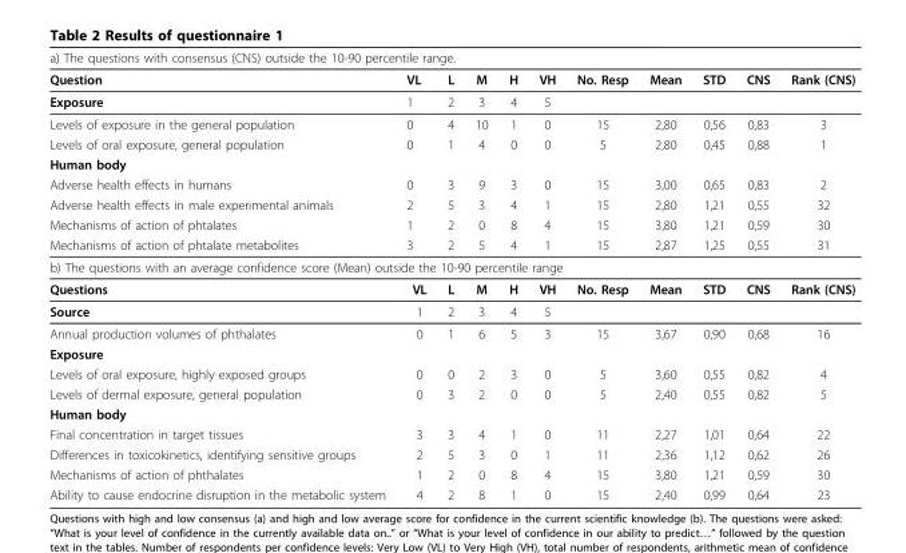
<table><thead><tr><td colspan="11">a) The questions with consensus (CNS) outside the 10-90 percentile range.</td></tr><tr><td>Question</td><td>VL</td><td>L</td><td>M</td><td>H</td><td>VH</td><td>No. Resp</td><td>Mean</td><td>STD</td><td>CNS</td><td>Rank (CNS)</td></tr></thead><tbody><tr><td>Exposure</td><td>1</td><td>2</td><td>3</td><td>4</td><td>5</td><td></td><td></td><td></td><td></td><td></td></tr><tr><td>Levels of exposure in the general population</td><td>0</td><td>4</td><td>10</td><td>1</td><td>0</td><td>15</td><td>2,80</td><td>0,56</td><td>0,83</td><td>3</td></tr><tr><td>Levels of oral exposure, general population</td><td>0</td><td>1</td><td>4</td><td>0</td><td>0</td><td>5</td><td>2,80</td><td>0,45</td><td>0,88</td><td>1</td></tr><tr><td colspan="11">Human body</td></tr><tr><td>Adverse health effects in humans</td><td>0</td><td>3</td><td>9</td><td>3</td><td>0</td><td>15</td><td>3,00</td><td>0,65</td><td>0,83</td><td>2</td></tr><tr><td>Adverse health effects in male experimental animals</td><td>2</td><td>5</td><td>3</td><td>4</td><td>1</td><td>15</td><td>2,80</td><td>1,21</td><td>0,55</td><td>32</td></tr><tr><td>Mechanisms of action of phtalates</td><td>1</td><td>2</td><td>0</td><td>8</td><td>4</td><td>15</td><td>3,80</td><td>1,21</td><td>0,59</td><td>30</td></tr><tr><td>Mechanisms of action of phtalate metabolites</td><td>3</td><td>2</td><td>5</td><td>4</td><td>1</td><td>15</td><td>2,87</td><td>1,25</td><td>0,55</td><td>31</td></tr><tr><td colspan="11">b) The questions with an average confidence score (Mean) outside the 10-90 percentile range</td></tr><tr><td>Questions</td><td>VL</td><td>L</td><td>M</td><td>H</td><td>VH</td><td>No. Resp</td><td>Mean</td><td>STD</td><td>CNS</td><td>Rank (CNS)</td></tr><tr><td>Source</td><td>1</td><td>2</td><td>3</td><td>4</td><td>5</td><td></td><td></td><td></td><td></td><td></td></tr><tr><td>Annual production volumes of phthalates</td><td>0</td><td>1</td><td>6</td><td>5</td><td>3</td><td>15</td><td>3,67</td><td>0,90</td><td>0,68</td><td>16</td></tr><tr><td colspan="11">Exposure</td></tr><tr><td>Levels of oral exposure, highly exposed groups</td><td>0</td><td>0</td><td>2</td><td>3</td><td>0</td><td>5</td><td>3,60</td><td>0,55</td><td>0,82</td><td>4</td></tr><tr><td>Levels of dermal exposure, general population</td><td>0</td><td>3</td><td>2</td><td>0</td><td>0</td><td>5</td><td>2,40</td><td>0,55</td><td>0,82</td><td>5</td></tr><tr><td colspan="11">Human body</td></tr><tr><td>Final concentration in target tissues</td><td>3</td><td>3</td><td>4</td><td>1</td><td>0</td><td>11</td><td>2,27</td><td>1,01</td><td>0,64</td><td>22</td></tr><tr><td>Differences in toxicokinetics, identifying sensitive groups</td><td>2</td><td>5</td><td>3</td><td>0</td><td>1</td><td>11</td><td>2,36</td><td>1,12</td><td>0,62</td><td>26</td></tr><tr><td>Mechanisms of action of phthalates</td><td>1</td><td>2</td><td>0</td><td>8</td><td>4</td><td>15</td><td>3,80</td><td>1,21</td><td>0,59</td><td>30</td></tr><tr><td>Ability to cause endocrine disruption in the metabolic system</td><td>4</td><td>2</td><td>8</td><td>1</td><td>0</td><td>15</td><td>2,40</td><td>0,99</td><td>0,64</td><td>23</td></tr></tbody></table>